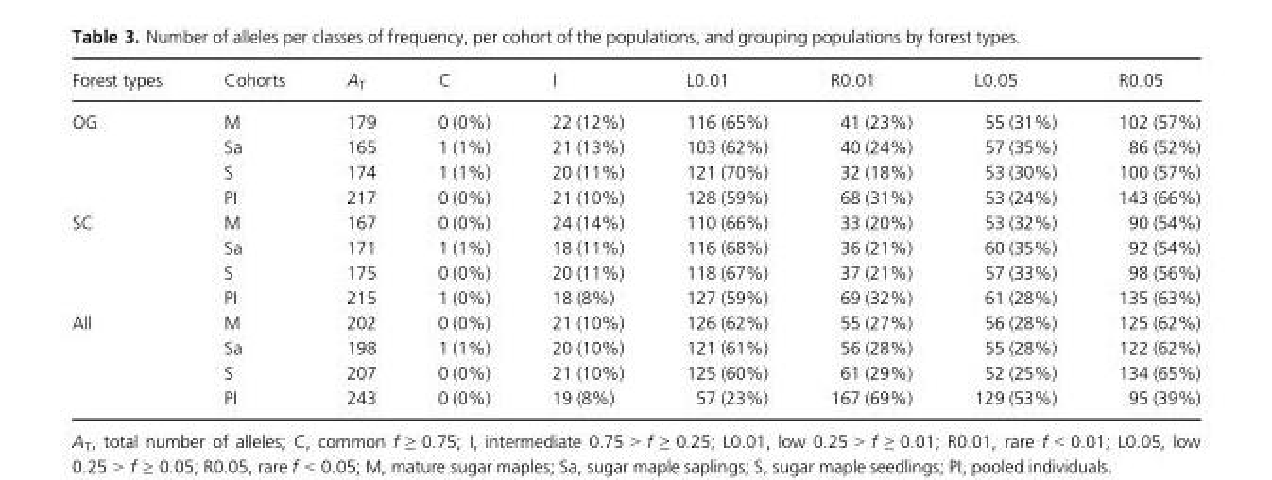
<table><thead><tr><td>Forest types</td><td>Cohorts</td><td>A<sub>T</sub></td><td>C</td><td>I</td><td>L0.01</td><td>R0.01</td><td>L0.05</td><td>R0.05</td></tr></thead><tbody><tr><td rowspan="4">OG</td><td>M</td><td>179</td><td>0 (0%)</td><td>22 (12%)</td><td>116 (65%)</td><td>41 (23%)</td><td>55 (31%)</td><td>102 (57%)</td></tr><tr><td>Sa</td><td>165</td><td>1 (1%)</td><td>21 (13%)</td><td>103 (62%)</td><td>40 (24%)</td><td>57 (35%)</td><td>86 (52%)</td></tr><tr><td>S</td><td>174</td><td>1 (1%)</td><td>20 (11%)</td><td>121 (70%)</td><td>32 (18%)</td><td>53 (30%)</td><td>100 (57%)</td></tr><tr><td>PI</td><td>217</td><td>0 (0%)</td><td>21 (10%)</td><td>128 (59%)</td><td>68 (31%)</td><td>53 (24%)</td><td>143 (66%)</td></tr><tr><td rowspan="4">SC</td><td>M</td><td>167</td><td>0 (0%)</td><td>24 (14%)</td><td>110 (66%)</td><td>33 (20%)</td><td>53 (32%)</td><td>90 (54%)</td></tr><tr><td>Sa</td><td>171</td><td>1 (1%)</td><td>18 (11%)</td><td>116 (68%)</td><td>36 (21%)</td><td>60 (35%)</td><td>92 (54%)</td></tr><tr><td>S</td><td>175</td><td>0 (0%)</td><td>20 (11%)</td><td>118 (67%)</td><td>37 (21%)</td><td>57 (33%)</td><td>98 (56%)</td></tr><tr><td>PI</td><td>215</td><td>1 (0%)</td><td>18 (8%)</td><td>127 (59%)</td><td>69 (32%)</td><td>61 (28%)</td><td>135 (63%)</td></tr><tr><td rowspan="4">All</td><td>M</td><td>202</td><td>0 (0%)</td><td>21 (10%)</td><td>126 (62%)</td><td>55 (27%)</td><td>56 (28%)</td><td>125 (62%)</td></tr><tr><td>Sa</td><td>198</td><td>1 (1%)</td><td>20 (10%)</td><td>121 (61%)</td><td>56 (28%)</td><td>55 (28%)</td><td>122 (62%)</td></tr><tr><td>S</td><td>207</td><td>0 (0%)</td><td>21 (10%)</td><td>125 (60%)</td><td>61 (29%)</td><td>52 (25%)</td><td>134 (65%)</td></tr><tr><td>PI</td><td>243</td><td>0 (0%)</td><td>19 (8%)</td><td>57 (23%)</td><td>167 (69%)</td><td>129 (53%)</td><td>95 (39%)</td></tr></tbody></table>